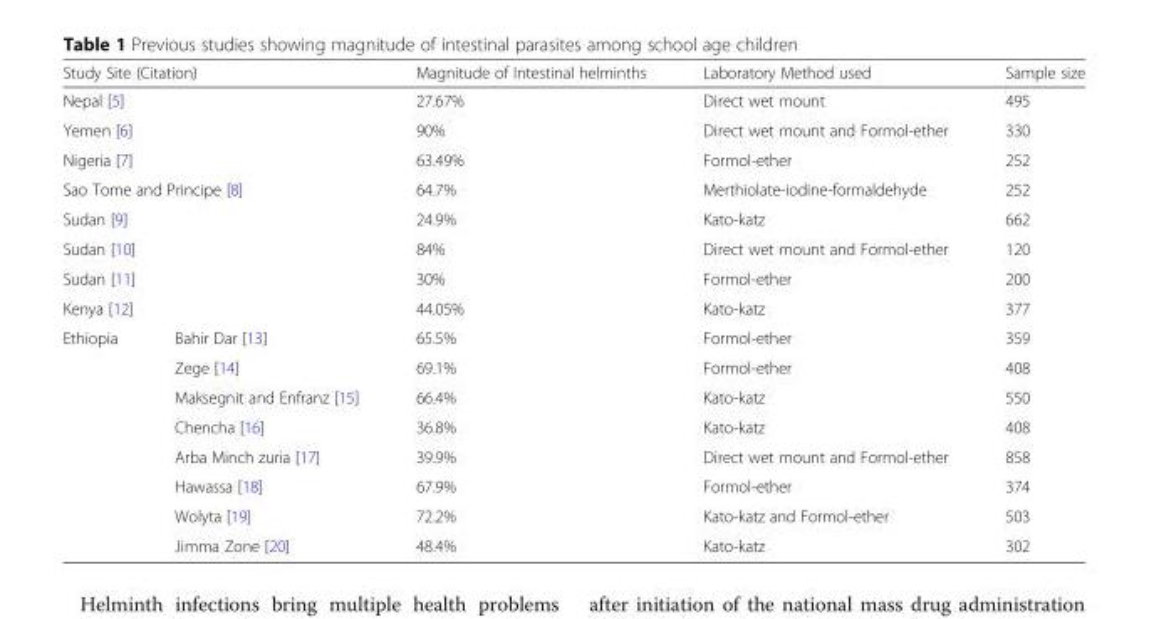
<table><thead><tr><td colspan="2">Study Site (Citation)</td><td>Magnitude of Intestinal helminths</td><td>Laboratory Method used</td><td>Sample size</td></tr></thead><tbody><tr><td colspan="2">Nepal [5]</td><td>27.67%</td><td>Direct wet mount</td><td>495</td></tr><tr><td colspan="2">Yemen [6]</td><td>90%</td><td>Direct wet mount and Formol-ether</td><td>330</td></tr><tr><td colspan="2">Nigeria [7]</td><td>63.49%</td><td>Formol-ether</td><td>252</td></tr><tr><td colspan="2">Sao Tome and Principe [8]</td><td>64.7%</td><td>Merthiolate-iodine-formaldehyde</td><td>252</td></tr><tr><td colspan="2">Sudan [9]</td><td>24.9%</td><td>Kato-katz</td><td>662</td></tr><tr><td colspan="2">Sudan [10]</td><td>84%</td><td>Direct wet mount and Formol-ether</td><td>120</td></tr><tr><td colspan="2">Sudan [11]</td><td>30%</td><td>Formol-ether</td><td>200</td></tr><tr><td colspan="2">Kenya [12]</td><td>44.05%</td><td>Kato-katz</td><td>377</td></tr><tr><td rowspan="8">Ethiopia</td><td>Bahir Dar [13]</td><td>65.5%</td><td>Formol-ether</td><td>359</td></tr><tr><td>Zege [14]</td><td>69.1%</td><td>Formol-ether</td><td>408</td></tr><tr><td>Maksegnit and Enfranz [15]</td><td>66.4%</td><td>Kato-katz</td><td>550</td></tr><tr><td>Chencha [16]</td><td>36.8%</td><td>Kato-katz</td><td>408</td></tr><tr><td>Arba Minch zuria [17]</td><td>39.9%</td><td>Direct wet mount and Formol-ether</td><td>858</td></tr><tr><td>Hawassa [18]</td><td>67.9%</td><td>Formol-ether</td><td>374</td></tr><tr><td>Wolyta [19]</td><td>72.2%</td><td>Kato-katz and Formol-ether</td><td>503</td></tr><tr><td>Jimma Zone [20]</td><td>48.4%</td><td>Kato-katz</td><td>302</td></tr></tbody></table>